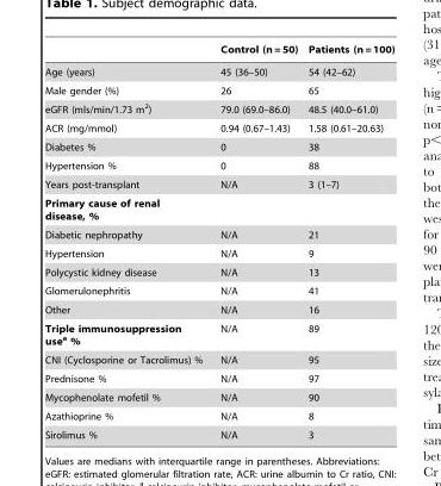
<table><thead><tr><td></td><td>Control (n = 50)</td><td>Patients (n = 100)</td></tr></thead><tbody><tr><td>Age (years)</td><td>45 (36–50)</td><td>54 (42–62)</td></tr><tr><td>Male gender (%)</td><td>26</td><td>65</td></tr><tr><td>eGFR (mls/min/1.73 m<sup>2</sup>)</td><td>79.0 (69.0–86.0)</td><td>48.5 (40.0–61.0)</td></tr><tr><td>ACR (mg/mmol)</td><td>0.94 (0.67–1.43)</td><td>1.58 (0.61–20.63)</td></tr><tr><td>Diabetes %</td><td>0</td><td>38</td></tr><tr><td>Hypertension %</td><td>0</td><td>88</td></tr><tr><td>Years post-transplant</td><td>N/A</td><td>3 (1–7)</td></tr><tr><td colspan="3">Primary cause of renal disease, %</td></tr><tr><td>Diabetic nephropathy</td><td>N/A</td><td>21</td></tr><tr><td>Hypertension</td><td>N/A</td><td>9</td></tr><tr><td>Polycystic kidney disease</td><td>N/A</td><td>13</td></tr><tr><td>Glomerulonephritis</td><td>N/A</td><td>41</td></tr><tr><td>Other</td><td>N/A</td><td>16</td></tr><tr><td>Triple immunosuppression use<sup>a</sup> %</td><td>N/A</td><td>89</td></tr><tr><td>CNI (Cyclosporine or Tacrolimus) %</td><td>N/A</td><td>95</td></tr><tr><td>Prednisone %</td><td>N/A</td><td>97</td></tr><tr><td>Mycophenolate mofetil %</td><td>N/A</td><td>90</td></tr><tr><td>Azathioprine %</td><td>N/A</td><td>8</td></tr><tr><td>Sirolimus %</td><td>N/A</td><td>3</td></tr></tbody></table>